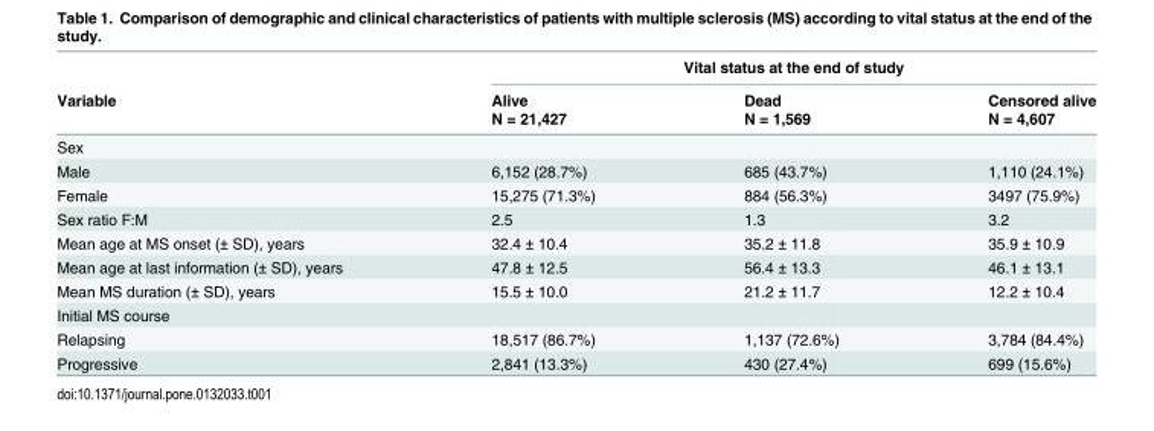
<table><thead><tr><td rowspan="3">Variable</td><td colspan="3">Vital status at the end of study</td></tr><tr><td rowspan="2">Alive N = 21,427</td><td rowspan="2">Dead N = 1,569</td><td rowspan="2">Censored alive N = 4,607</td></tr><tr></tr></thead><tbody><tr><td colspan="4">Sex</td></tr><tr><td>Male</td><td>6,152 (28.7%)</td><td>685 (43.7%)</td><td>1,110 (24.1%)</td></tr><tr><td>Female</td><td>15,275 (71.3%)</td><td>884 (56.3%)</td><td>3497 (75.9%)</td></tr><tr><td>Sex ratio F:M</td><td>2.5</td><td>1.3</td><td>3.2</td></tr><tr><td>Mean age at MS onset (± SD), years</td><td>32.4 ± 10.4</td><td>35.2 ± 11.8</td><td>35.9 ± 10.9</td></tr><tr><td>Mean age at last information (± SD), years</td><td>47.8 ± 12.5</td><td>56.4 ± 13.3</td><td>46.1 ± 13.1</td></tr><tr><td>Mean MS duration (± SD), years</td><td>15.5 ± 10.0</td><td>21.2 ± 11.7</td><td>12.2 ± 10.4</td></tr><tr><td colspan="4">Initial MS course</td></tr><tr><td>Relapsing</td><td>18,517 (86.7%)</td><td>1,137 (72.6%)</td><td>3,784 (84.4%)</td></tr><tr><td>Progressive</td><td>2,841 (13.3%)</td><td>430 (27.4%)</td><td>699 (15.6%)</td></tr></tbody></table>